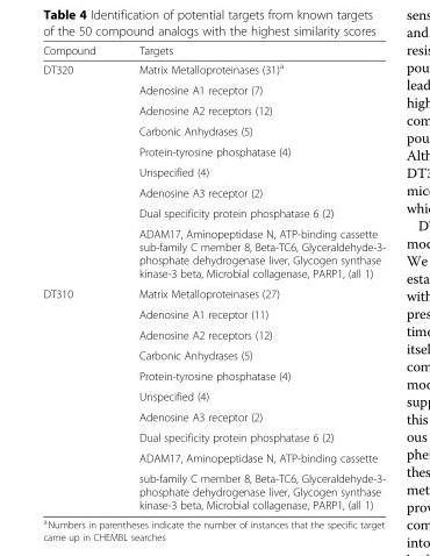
<table><thead><tr><td>Compound</td><td>Targets</td></tr></thead><tbody><tr><td rowspan="9">DT320</td><td>Matrix Metalloproteinases (31)<sup>a</sup></td></tr><tr><td>Adenosine A1 receptor (7)</td></tr><tr><td>Adenosine A2 receptors (12)</td></tr><tr><td>Carbonic Anhydrases (5)</td></tr><tr><td>Protein-tyrosine phosphatase (4)</td></tr><tr><td>Unspecified (4)</td></tr><tr><td>Adenosine A3 receptor (2)</td></tr><tr><td>Dual specificity protein phosphatase 6 (2)</td></tr><tr><td>ADAM17, Aminopeptidase N, ATP-binding cassette sub-family C member 8, Beta-TC6, Glyceraldehyde-3- phosphate dehydrogenase liver, Glycogen synthase kinase-3 beta, Microbial collagenase, PARP1, (all 1)</td></tr><tr><td rowspan="10">DT310</td><td>Matrix Metalloproteinases (27)</td></tr><tr><td>Adenosine A1 receptor (11)</td></tr><tr><td>Adenosine A2 receptors (12)</td></tr><tr><td>Carbonic Anhydrases (5)</td></tr><tr><td>Protein-tyrosine phosphatase (4)</td></tr><tr><td>Unspecified (4)</td></tr><tr><td>Adenosine A3 receptor (2)</td></tr><tr><td>Dual specificity protein phosphatase 6 (2)</td></tr><tr><td>ADAM17, Aminopeptidase N, ATP-binding cassette</td></tr><tr><td>sub-family C member 8, Beta-TC6, Glyceraldehyde-3- phosphate dehydrogenase liver, Glycogen synthase kinase-3 beta, Microbial collagenase, PARP1, (all 1)</td></tr></tbody></table>